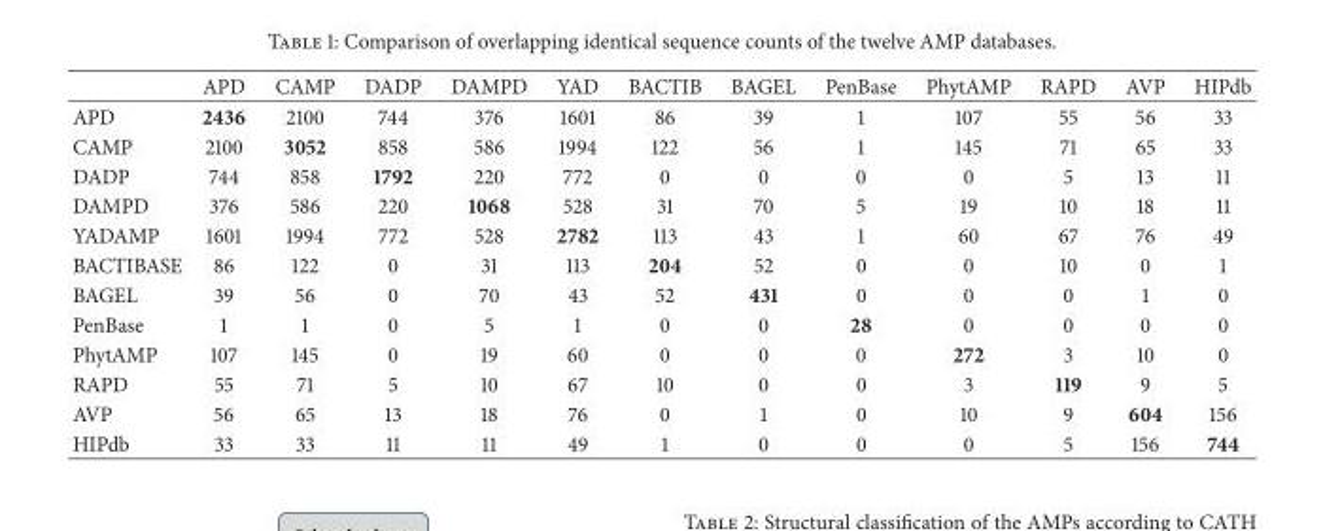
<table><thead><tr><td></td><td>APD</td><td>CAMP</td><td>DADP</td><td>DAMPD</td><td>YAD</td><td>BACTIB</td><td>BAGEL</td><td>PenBase</td><td>PhytAMP</td><td>RAPD</td><td>AVP</td><td>HIPdb</td></tr></thead><tbody><tr><td>APD</td><td>2436</td><td>2100</td><td>744</td><td>376</td><td>1601</td><td>86</td><td>39</td><td>1</td><td>107</td><td>55</td><td>56</td><td>33</td></tr><tr><td>CAMP</td><td>2100</td><td>3052</td><td>858</td><td>586</td><td>1994</td><td>122</td><td>56</td><td>1</td><td>145</td><td>71</td><td>65</td><td>33</td></tr><tr><td>DADP</td><td>744</td><td>858</td><td>1792</td><td>220</td><td>772</td><td>0</td><td>0</td><td>0</td><td>0</td><td>5</td><td>13</td><td>11</td></tr><tr><td>DAMPD</td><td>376</td><td>586</td><td>220</td><td>1068</td><td>528</td><td>31</td><td>70</td><td>5</td><td>19</td><td>10</td><td>18</td><td>11</td></tr><tr><td>YADAMP</td><td>1601</td><td>1994</td><td>772</td><td>528</td><td>2782</td><td>113</td><td>43</td><td>1</td><td>60</td><td>67</td><td>76</td><td>49</td></tr><tr><td>BACTIBASE</td><td>86</td><td>122</td><td>0</td><td>31</td><td>113</td><td>204</td><td>52</td><td>0</td><td>0</td><td>10</td><td>0</td><td>1</td></tr><tr><td>BAGEL</td><td>39</td><td>56</td><td>0</td><td>70</td><td>43</td><td>52</td><td>431</td><td>0</td><td>0</td><td>0</td><td>1</td><td>0</td></tr><tr><td>PenBase</td><td>1</td><td>1</td><td>0</td><td>5</td><td>1</td><td>0</td><td>0</td><td>28</td><td>0</td><td>0</td><td>0</td><td>0</td></tr><tr><td>PhytAMP</td><td>107</td><td>145</td><td>0</td><td>19</td><td>60</td><td>0</td><td>0</td><td>0</td><td>272</td><td>3</td><td>10</td><td>0</td></tr><tr><td>RAPD</td><td>55</td><td>71</td><td>5</td><td>10</td><td>67</td><td>10</td><td>0</td><td>0</td><td>3</td><td>119</td><td>9</td><td>5</td></tr><tr><td>AVP</td><td>56</td><td>65</td><td>13</td><td>18</td><td>76</td><td>0</td><td>1</td><td>0</td><td>10</td><td>9</td><td>604</td><td>156</td></tr><tr><td>HIPdb</td><td>33</td><td>33</td><td>11</td><td>11</td><td>49</td><td>1</td><td>0</td><td>0</td><td>0</td><td>5</td><td>156</td><td>744</td></tr></tbody></table>